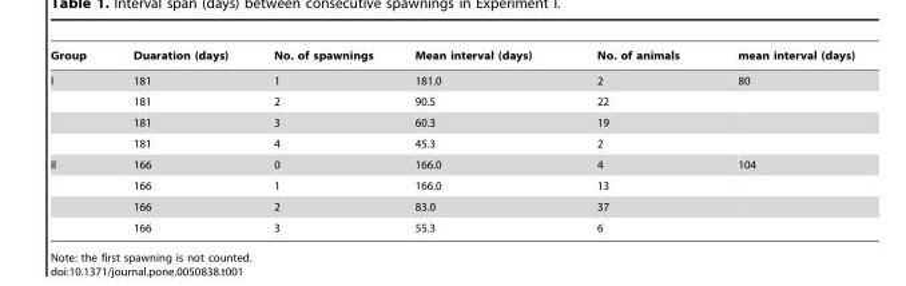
<table><thead><tr><td>Group</td><td>Duaration (days)</td><td>No. of spawnings</td><td>Mean interval (days)</td><td>No. of animals</td><td>mean interval (days)</td></tr></thead><tbody><tr><td rowspan="4">I</td><td>181</td><td>1</td><td>181.0</td><td>2</td><td>80</td></tr><tr><td>181</td><td>2</td><td>90.5</td><td>22</td><td></td></tr><tr><td>181</td><td>3</td><td>60.3</td><td>19</td><td></td></tr><tr><td>181</td><td>4</td><td>45.3</td><td>2</td><td></td></tr><tr><td rowspan="4">II</td><td>166</td><td>0</td><td>166.0</td><td>4</td><td>104</td></tr><tr><td>166</td><td>1</td><td>166.0</td><td>13</td><td></td></tr><tr><td>166</td><td>2</td><td>83.0</td><td>37</td><td></td></tr><tr><td>166</td><td>3</td><td>55.3</td><td>6</td><td></td></tr></tbody></table>